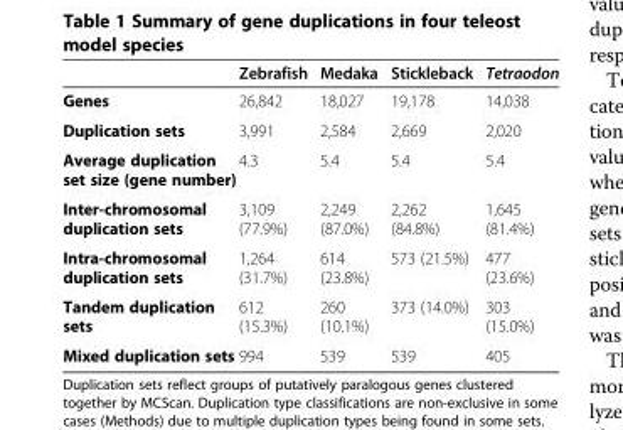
<table><thead><tr><td></td><td>Zebrafish</td><td>Medaka</td><td>Stickleback</td><td>Tetraodon</td></tr></thead><tbody><tr><td>Genes</td><td>26,842</td><td>18,027</td><td>19,178</td><td>14,038</td></tr><tr><td>Duplication sets</td><td>3,991</td><td>2,584</td><td>2,669</td><td>2,020</td></tr><tr><td>Average duplication set size (gene number)</td><td>4.3</td><td>5.4</td><td>5.4</td><td>5.4</td></tr><tr><td>Inter-chromosomal duplication sets</td><td>3,109 (77.9%)</td><td>2,249 (87.0%)</td><td>2,262 (84.8%)</td><td>1,645 (81.4%)</td></tr><tr><td>Intra-chromosomal duplication sets</td><td>1,264 (31.7%)</td><td>614 (23.8%)</td><td>573 (21.5%)</td><td>477 (23.6%)</td></tr><tr><td>Tandem duplication sets</td><td>612 (15.3%)</td><td>260 (10.1%)</td><td>373 (14.0%)</td><td>303 (15.0%)</td></tr><tr><td>Mixed duplication sets</td><td>994</td><td>539</td><td>539</td><td>405</td></tr></tbody></table>